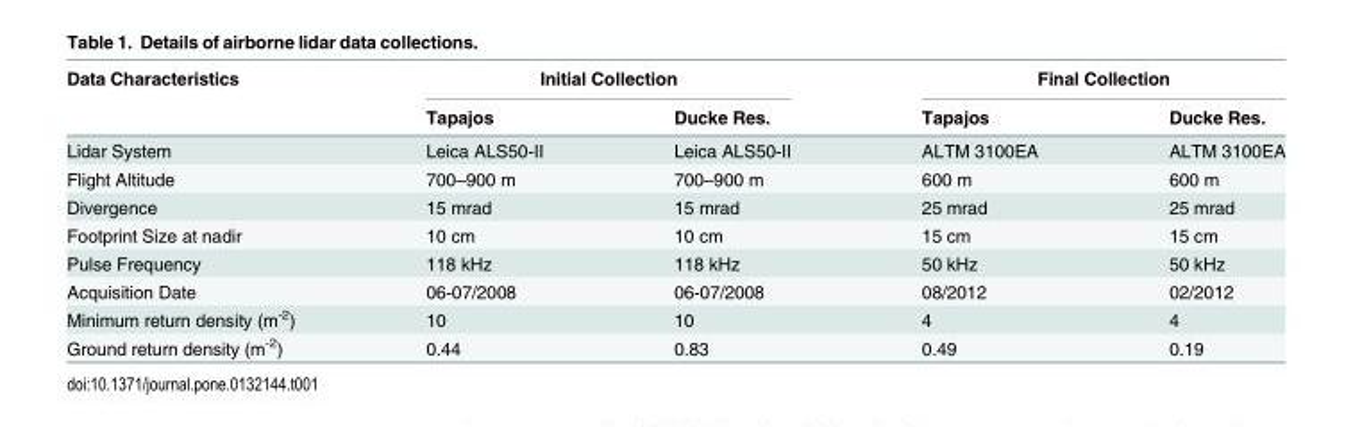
<table><thead><tr><td rowspan="2">Data Characteristics</td><td colspan="2">Initial Collection</td><td colspan="2">Final Collection</td></tr><tr><td>Tapajos</td><td>Ducke Res.</td><td>Tapajos</td><td>Ducke Res.</td></tr></thead><tbody><tr><td>Lidar System</td><td>Leica ALS50-II</td><td>Leica ALS50-II</td><td>ALTM 3100EA</td><td>ALTM 3100EA</td></tr><tr><td>Flight Altitude</td><td>700–900 m</td><td>700–900 m</td><td>600 m</td><td>600 m</td></tr><tr><td>Divergence</td><td>15 mrad</td><td>15 mrad</td><td>25 mrad</td><td>25 mrad</td></tr><tr><td>Footprint Size at nadir</td><td>10 cm</td><td>10 cm</td><td>15 cm</td><td>15 cm</td></tr><tr><td>Pulse Frequency</td><td>118 kHz</td><td>118 kHz</td><td>50 kHz</td><td>50 kHz</td></tr><tr><td>Acquisition Date</td><td>06-07/2008</td><td>06-07/2008</td><td>08/2012</td><td>02/2012</td></tr><tr><td>Minimum return density (m<sup>-2</sup>)</td><td>10</td><td>10</td><td>4</td><td>4</td></tr><tr><td>Ground return density (m<sup>-2</sup>)</td><td>0.44</td><td>0.83</td><td>0.49</td><td>0.19</td></tr></tbody></table>